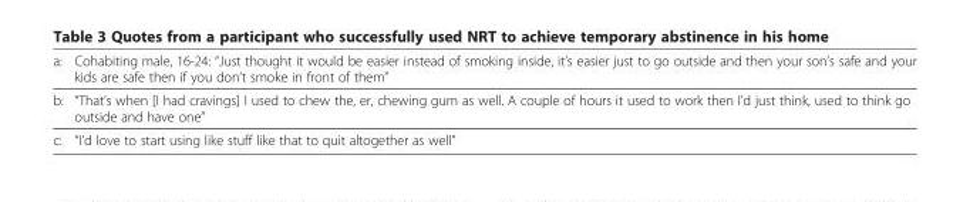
<table><tbody><tr><td>a:</td><td>Cohabiting male, 16-24: “Just thought it would be easier instead of smoking inside, it’s easier just to go outside and then your son’s safe and your kids are safe then if you don’t smoke in front of them”</td></tr><tr><td>b:</td><td>“That’s when [I had cravings] I used to chew the, er, chewing gum as well. A couple of hours it used to work then I’d just think, used to think go outside and have one”</td></tr><tr><td>c:</td><td>“I’d love to start using like stuff like that to quit altogether as well”</td></tr></tbody></table>